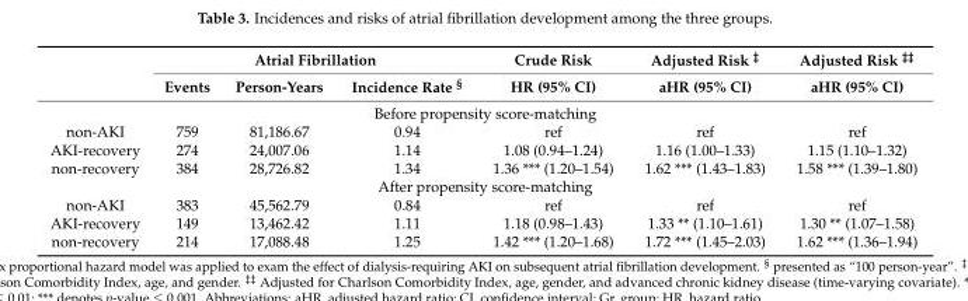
<table><thead><tr><td rowspan="2"></td><td colspan="3">Atrial Fibrillation</td><td rowspan="2">Crude Risk HR (95% CI)</td><td rowspan="2">Adjusted Risk <sup>‡</sup> aHR (95% CI)</td><td rowspan="2">Adjusted Risk <sup>‡‡</sup> aHR (95% CI)</td></tr><tr><td>Events</td><td>Person-Years</td><td>Incidence Rate <sup>§</sup></td></tr></thead><tbody><tr><td colspan="7">Before propensity score-matching</td></tr><tr><td>non-AKI</td><td>759</td><td>81,186.67</td><td>0.94</td><td>ref</td><td>ref</td><td>ref</td></tr><tr><td>AKI-recovery</td><td>274</td><td>24,007.06</td><td>1.14</td><td>1.08 (0.94–1.24)</td><td>1.16 (1.00–1.33)</td><td>1.15 (1.10–1.32)</td></tr><tr><td>non-recovery</td><td>384</td><td>28,726.82</td><td>1.34</td><td>1.36 *** (1.20–1.54)</td><td>1.62 *** (1.43–1.83)</td><td>1.58 *** (1.39–1.80)</td></tr><tr><td colspan="7">After propensity score-matching</td></tr><tr><td>non-AKI</td><td>383</td><td>45,562.79</td><td>0.84</td><td>ref</td><td>ref</td><td>ref</td></tr><tr><td>AKI-recovery</td><td>149</td><td>13,462.42</td><td>1.11</td><td>1.18 (0.98–1.43)</td><td>1.33 ** (1.10–1.61)</td><td>1.30 ** (1.07–1.58)</td></tr><tr><td>non-recovery</td><td>214</td><td>17,088.48</td><td>1.25</td><td>1.42 *** (1.20–1.68)</td><td>1.72 *** (1.45–2.03)</td><td>1.62 *** (1.36–1.94)</td></tr></tbody></table>